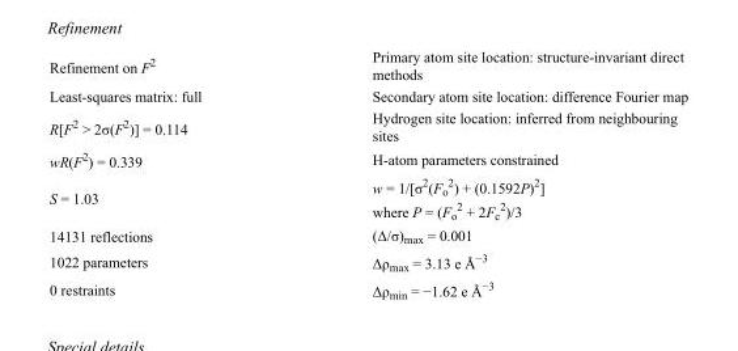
<table><tbody><tr><td>Refinement on F<sup>2</sup></td><td>Primary atom site location: structure-invariant direct methods</td></tr><tr><td>Least-squares matrix: full</td><td>Secondary atom site location: difference Fourier map</td></tr><tr><td>R[F<sup>2</sup> &gt; 2σ(F<sup>2</sup>)] = 0.114</td><td>Hydrogen site location: inferred from neighbouring sites</td></tr><tr><td>wR(F<sup>2</sup>) = 0.339</td><td>H-atom parameters constrained</td></tr><tr><td>S = 1.03</td><td>w = 1/[σ<sup>2</sup>(F<sub>o</sub> <sup>2</sup>) + (0.1592P)<sup>2</sup>] where P = (F<sub>o</sub> <sup>2</sup> + 2F<sub>c</sub> <sup>2</sup>)/3</td></tr><tr><td>14131 reflections</td><td>(Δ/σ)<sub>max</sub> = 0.001</td></tr><tr><td>1022 parameters</td><td>Δρ<sub>max</sub> = 3.13 e Å<sup>−3</sup></td></tr><tr><td>0 restraints</td><td>Δρ<sub>min</sub> = −1.62 e Å<sup>−3</sup></td></tr></tbody></table>